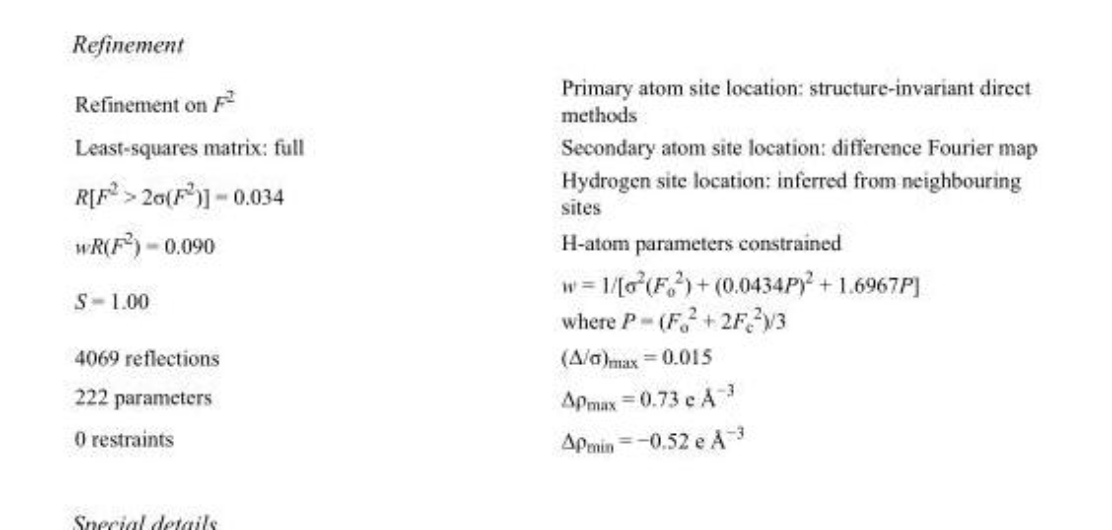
<table><tbody><tr><td>Refinement on F<sup>2</sup></td><td>Primary atom site location: structure-invariant direct methods</td></tr><tr><td>Least-squares matrix: full</td><td>Secondary atom site location: difference Fourier map</td></tr><tr><td>R[F<sup>2</sup> &gt; 2σ(F<sup>2</sup>)] = 0.034</td><td>Hydrogen site location: inferred from neighbouring sites</td></tr><tr><td>wR(F<sup>2</sup>) = 0.090</td><td>H-atom parameters constrained</td></tr><tr><td>S = 1.00</td><td>w = 1/[σ<sup>2</sup>(F<sub>o</sub> <sup>2</sup>) + (0.0434P)<sup>2</sup> + 1.6967P] where P = (F<sub>o</sub> <sup>2</sup> + 2F<sub>c</sub> <sup>2</sup>)/3</td></tr><tr><td>4069 reflections</td><td>(Δ/σ)<sub>max</sub> = 0.015</td></tr><tr><td>222 parameters</td><td>Δρ<sub>max</sub> = 0.73 e Å<sup>−3</sup></td></tr><tr><td>0 restraints</td><td>Δρ<sub>min</sub> = −0.52 e Å<sup>−3</sup></td></tr></tbody></table>